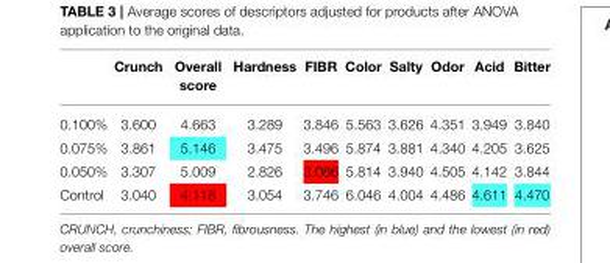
<table><thead><tr><td></td><td>Crunch</td><td>Overall score</td><td>Hardness</td><td>FIBR</td><td>Color</td><td>Salty</td><td>Odor</td><td>Acid</td><td>Bitter</td></tr></thead><tbody><tr><td>0.100%</td><td>3.600</td><td>4.663</td><td>3.289</td><td>3.846</td><td>5.563</td><td>3.626</td><td>4.351</td><td>3.949</td><td>3.840</td></tr><tr><td>0.075%</td><td>3.861</td><td>5.146</td><td>3.475</td><td>3.496</td><td>5.874</td><td>3.881</td><td>4.340</td><td>4.205</td><td>3.625</td></tr><tr><td>0.050%</td><td>3.307</td><td>5.009</td><td>2.826</td><td>3.086</td><td>5.814</td><td>3.940</td><td>4.505</td><td>4.142</td><td>3.844</td></tr><tr><td>Control</td><td>3.040</td><td>4.118</td><td>3.054</td><td>3.746</td><td>6.046</td><td>4.004</td><td>4.486</td><td>4.611</td><td>4.470</td></tr></tbody></table>